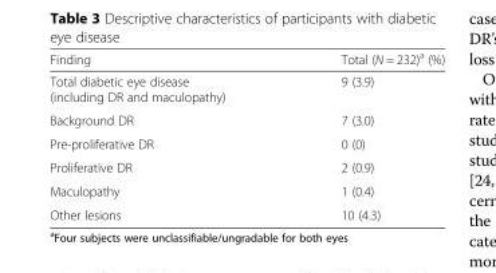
<table><thead><tr><td>Finding</td><td>Total (N = 232)<sup>a</sup> (%)</td></tr></thead><tbody><tr><td>Total diabetic eye disease (including DR and maculopathy)</td><td>9 (3.9)</td></tr><tr><td>Background DR</td><td>7 (3.0)</td></tr><tr><td>Pre-proliferative DR</td><td>0 (0)</td></tr><tr><td>Proliferative DR</td><td>2 (0.9)</td></tr><tr><td>Maculopathy</td><td>1 (0.4)</td></tr><tr><td>Other lesions</td><td>10 (4.3)</td></tr></tbody></table>